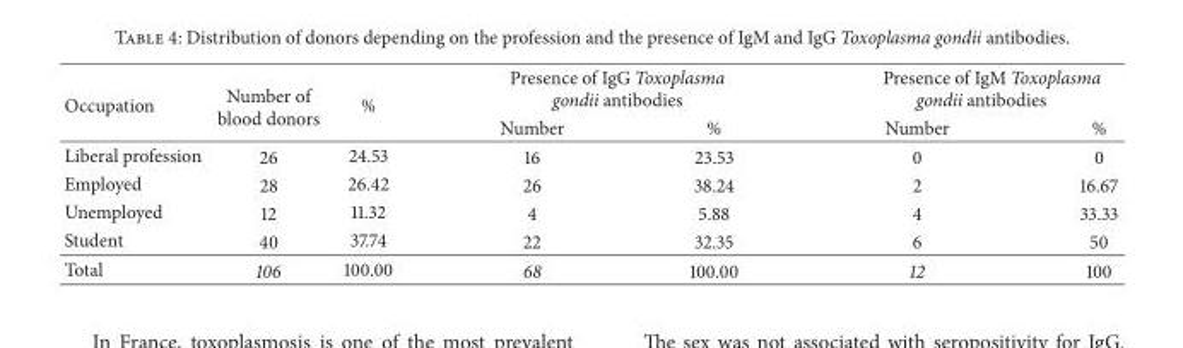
<table><thead><tr><td rowspan="2">Occupation</td><td rowspan="2">Number of blood donors</td><td rowspan="2">%</td><td colspan="2">Presence of IgG Toxoplasma gondii antibodies</td><td colspan="2">Presence of IgM Toxoplasma gondii antibodies</td></tr><tr><td>Number</td><td>%</td><td>Number</td><td>%</td></tr></thead><tbody><tr><td>Liberal profession</td><td>26</td><td>24.53</td><td>16</td><td>23.53</td><td>0</td><td>0</td></tr><tr><td>Employed</td><td>28</td><td>26.42</td><td>26</td><td>38.24</td><td>2</td><td>16.67</td></tr><tr><td>Unemployed</td><td>12</td><td>11.32</td><td>4</td><td>5.88</td><td>4</td><td>33.33</td></tr><tr><td>Student</td><td>40</td><td>37.74</td><td>22</td><td>32.35</td><td>6</td><td>50</td></tr><tr><td>Total</td><td>106</td><td>100.00</td><td>68</td><td>100.00</td><td>12</td><td>100</td></tr></tbody></table>